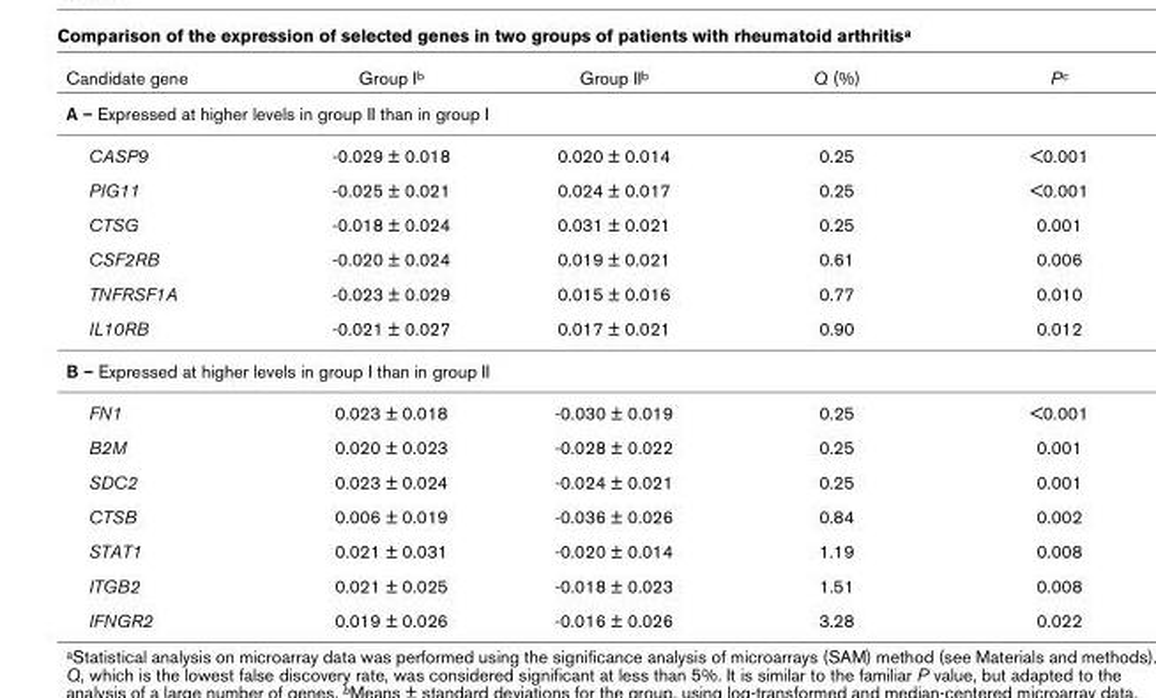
<table><thead><tr><td>Candidate gene</td><td>Group Ib</td><td>Group IIb</td><td>Q (%)</td><td>Pc</td></tr></thead><tbody><tr><td colspan="5">A – Expressed at higher levels in group II than in group I</td></tr><tr><td>CASP9</td><td>-0.029 ± 0.018</td><td>0.020 ± 0.014</td><td>0.25</td><td>&lt;0.001</td></tr><tr><td>PIG11</td><td>-0.025 ± 0.021</td><td>0.024 ± 0.017</td><td>0.25</td><td>&lt;0.001</td></tr><tr><td>CTSG</td><td>-0.018 ± 0.024</td><td>0.031 ± 0.021</td><td>0.25</td><td>0.001</td></tr><tr><td>CSF2RB</td><td>-0.020 ± 0.024</td><td>0.019 ± 0.021</td><td>0.61</td><td>0.006</td></tr><tr><td>TNFRSF1A</td><td>-0.023 ± 0.029</td><td>0.015 ± 0.016</td><td>0.77</td><td>0.010</td></tr><tr><td>IL10RB</td><td>-0.021 ± 0.027</td><td>0.017 ± 0.021</td><td>0.90</td><td>0.012</td></tr><tr><td colspan="5">B – Expressed at higher levels in group I than in group II</td></tr><tr><td>FN1</td><td>0.023 ± 0.018</td><td>-0.030 ± 0.019</td><td>0.25</td><td>&lt;0.001</td></tr><tr><td>B2M</td><td>0.020 ± 0.023</td><td>-0.028 ± 0.022</td><td>0.25</td><td>0.001</td></tr><tr><td>SDC2</td><td>0.023 ± 0.024</td><td>-0.024 ± 0.021</td><td>0.25</td><td>0.001</td></tr><tr><td>CTSB</td><td>0.006 ± 0.019</td><td>-0.036 ± 0.026</td><td>0.84</td><td>0.002</td></tr><tr><td>STAT1</td><td>0.021 ± 0.031</td><td>-0.020 ± 0.014</td><td>1.19</td><td>0.008</td></tr><tr><td>ITGB2</td><td>0.021 ± 0.025</td><td>-0.018 ± 0.023</td><td>1.51</td><td>0.008</td></tr><tr><td>IFNGR2</td><td>0.019 ± 0.026</td><td>-0.016 ± 0.026</td><td>3.28</td><td>0.022</td></tr></tbody></table>